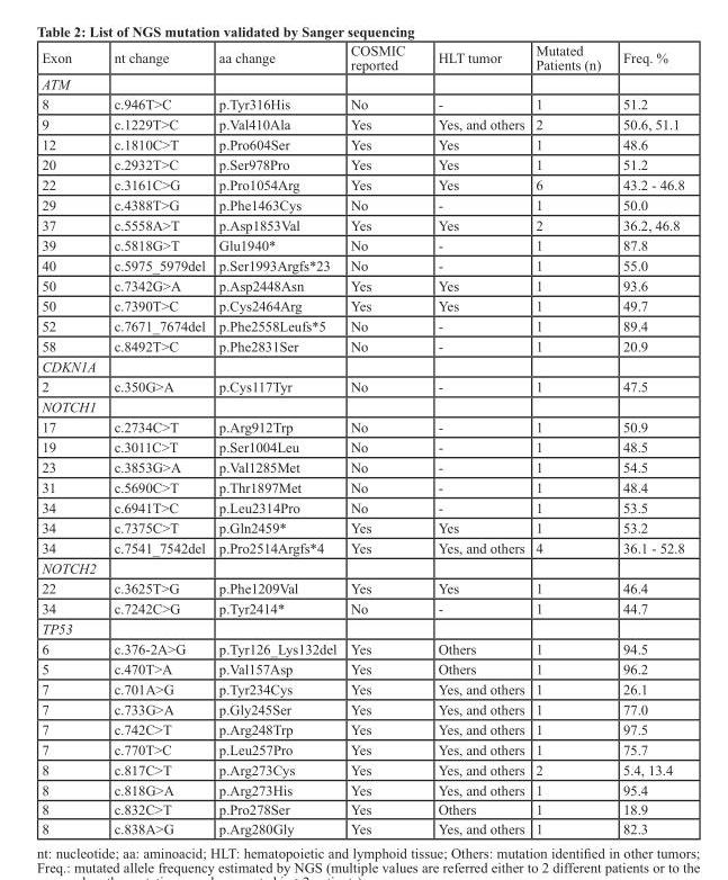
<table><thead><tr><td>Exon</td><td>nt change</td><td>aa change</td><td>COSMIC reported</td><td>HLT tumor</td><td>Mutated Patients (n)</td><td>Freq. %</td></tr></thead><tbody><tr><td colspan="7">ATM</td></tr><tr><td>8</td><td>c.946T&gt;C</td><td>p.Tyr316His</td><td>No</td><td>-</td><td>1</td><td>51.2</td></tr><tr><td>9</td><td>c.1229T&gt;C</td><td>p.Val410Ala</td><td>Yes</td><td>Yes, and others</td><td>2</td><td>50.6, 51.1</td></tr><tr><td>12</td><td>c.1810C&gt;T</td><td>p.Pro604Ser</td><td>Yes</td><td>Yes</td><td>1</td><td>48.6</td></tr><tr><td>20</td><td>c.2932T&gt;C</td><td>p.Ser978Pro</td><td>Yes</td><td>Yes</td><td>1</td><td>51.2</td></tr><tr><td>22</td><td>c.3161C&gt;G</td><td>p.Pro1054Arg</td><td>Yes</td><td>Yes</td><td>6</td><td>43.2 - 46.8</td></tr><tr><td>29</td><td>c.4388T&gt;G</td><td>p.Phe1463Cys</td><td>No</td><td>-</td><td>1</td><td>50.0</td></tr><tr><td>37</td><td>c.5558A&gt;T</td><td>p.Asp1853Val</td><td>Yes</td><td>Yes</td><td>2</td><td>36.2, 46.8</td></tr><tr><td>39</td><td>c.5818G&gt;T</td><td>Glu1940*</td><td>No</td><td>-</td><td>1</td><td>87.8</td></tr><tr><td>40</td><td>c.5975_5979del</td><td>p.Ser1993Argfs*23</td><td>No</td><td>-</td><td>1</td><td>55.0</td></tr><tr><td>50</td><td>c.7342G&gt;A</td><td>p.Asp2448Asn</td><td>Yes</td><td>Yes</td><td>1</td><td>93.6</td></tr><tr><td>50</td><td>c.7390T&gt;C</td><td>p.Cys2464Arg</td><td>Yes</td><td>Yes</td><td>1</td><td>49.7</td></tr><tr><td>52</td><td>c.7671_7674del</td><td>p.Phe2558Leufs*5</td><td>No</td><td>-</td><td>1</td><td>89.4</td></tr><tr><td>58</td><td>c.8492T&gt;C</td><td>p.Phe2831Ser</td><td>No</td><td>-</td><td>1</td><td>20.9</td></tr><tr><td colspan="7">CDKN1A</td></tr><tr><td>2</td><td>c.350G&gt;A</td><td>p.Cys117Tyr</td><td>No</td><td>-</td><td>1</td><td>47.5</td></tr><tr><td colspan="7">NOTCH1</td></tr><tr><td>17</td><td>c.2734C&gt;T</td><td>p.Arg912Trp</td><td>No</td><td>-</td><td>1</td><td>50.9</td></tr><tr><td>19</td><td>c.3011C&gt;T</td><td>p.Ser1004Leu</td><td>No</td><td>-</td><td>1</td><td>48.5</td></tr><tr><td>23</td><td>c.3853G&gt;A</td><td>p.Val1285Met</td><td>No</td><td>-</td><td>1</td><td>54.5</td></tr><tr><td>31</td><td>c.5690C&gt;T</td><td>p.Thr1897Met</td><td>No</td><td>-</td><td>1</td><td>48.4</td></tr><tr><td>34</td><td>c.6941T&gt;C</td><td>p.Leu2314Pro</td><td>No</td><td>-</td><td>1</td><td>53.5</td></tr><tr><td>34</td><td>c.7375C&gt;T</td><td>p.Gln2459*</td><td>Yes</td><td>Yes</td><td>1</td><td>53.2</td></tr><tr><td>34</td><td>c.7541_7542del</td><td>p.Pro2514Argfs*4</td><td>Yes</td><td>Yes, and others</td><td>4</td><td>36.1 - 52.8</td></tr><tr><td colspan="7">NOTCH2</td></tr><tr><td>22</td><td>c.3625T&gt;G</td><td>p.Phe1209Val</td><td>Yes</td><td>Yes</td><td>1</td><td>46.4</td></tr><tr><td>34</td><td>c.7242C&gt;G</td><td>p.Tyr2414*</td><td>No</td><td>-</td><td>1</td><td>44.7</td></tr><tr><td colspan="7">TP53</td></tr><tr><td>6</td><td>c.376-2A&gt;G</td><td>p.Tyr126_Lys132del</td><td>Yes</td><td>Others</td><td>1</td><td>94.5</td></tr><tr><td>5</td><td>c.470T&gt;A</td><td>p.Val157Asp</td><td>Yes</td><td>Others</td><td>1</td><td>96.2</td></tr><tr><td>7</td><td>c.701A&gt;G</td><td>p.Tyr234Cys</td><td>Yes</td><td>Yes, and others</td><td>1</td><td>26.1</td></tr><tr><td>7</td><td>c.733G&gt;A</td><td>p.Gly245Ser</td><td>Yes</td><td>Yes, and others</td><td>1</td><td>77.0</td></tr><tr><td>7</td><td>c.742C&gt;T</td><td>p.Arg248Trp</td><td>Yes</td><td>Yes, and others</td><td>1</td><td>97.5</td></tr><tr><td>7</td><td>c.770T&gt;C</td><td>p.Leu257Pro</td><td>Yes</td><td>Yes, and others</td><td>1</td><td>75.7</td></tr><tr><td>8</td><td>c.817C&gt;T</td><td>p.Arg273Cys</td><td>Yes</td><td>Yes, and others</td><td>2</td><td>5.4, 13.4</td></tr><tr><td>8</td><td>c.818G&gt;A</td><td>p.Arg273His</td><td>Yes</td><td>Yes, and others</td><td>1</td><td>95.4</td></tr><tr><td>8</td><td>c.832C&gt;T</td><td>p.Pro278Ser</td><td>Yes</td><td>Others</td><td>1</td><td>18.9</td></tr><tr><td>8</td><td>c.838A&gt;G</td><td>p.Arg280Gly</td><td>Yes</td><td>Yes, and others</td><td>1</td><td>82.3</td></tr></tbody></table>